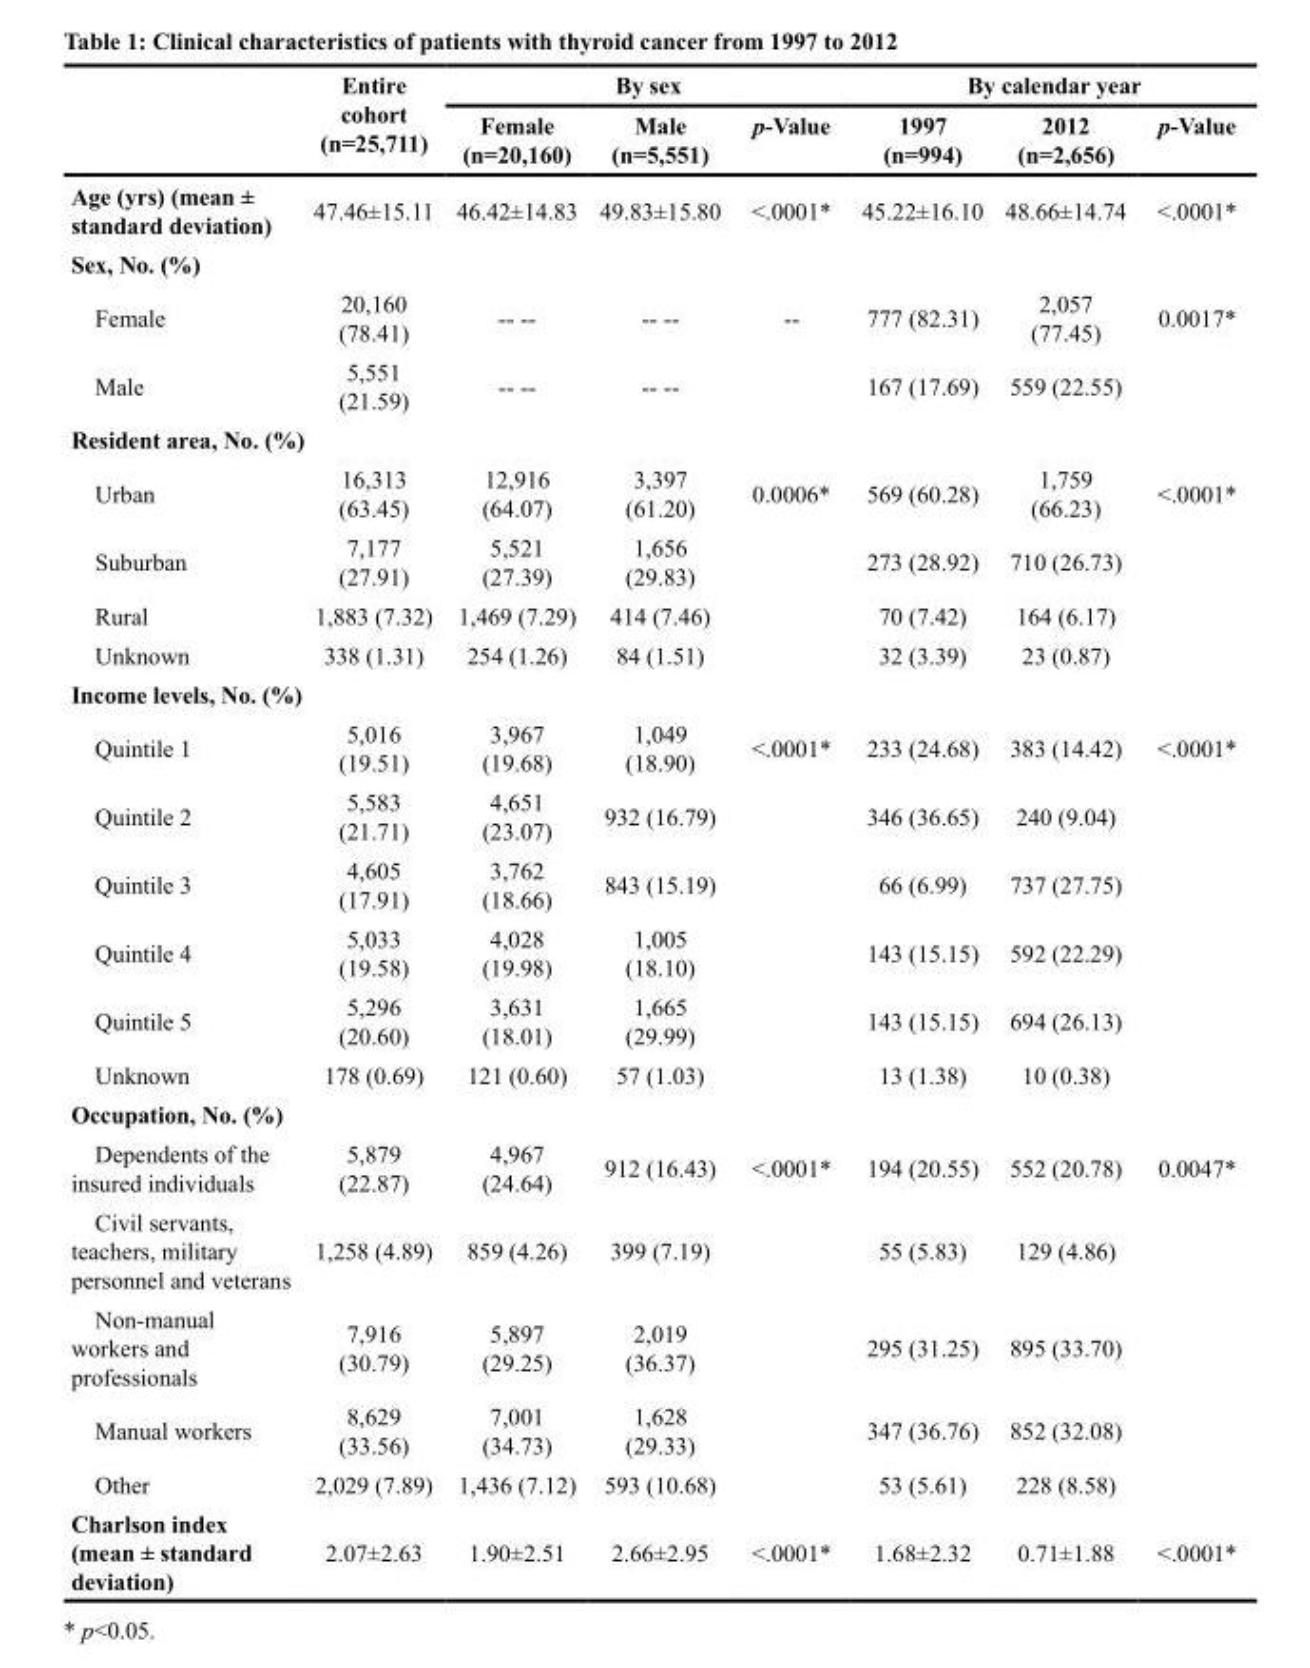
<table><thead><tr><td rowspan="2"></td><td rowspan="2">Entire cohort (n=25,711)</td><td colspan="3">By sex</td><td colspan="3">By calendar year</td></tr><tr><td>Female (n=20,160)</td><td>Male (n=5,551)</td><td>p-Value</td><td>1997 (n=994)</td><td>2012 (n=2,656)</td><td>p-Value</td></tr></thead><tbody><tr><td>Age (yrs) (mean ± standard deviation)</td><td>47.46±15.11</td><td>46.42±14.83</td><td>49.83±15.80</td><td>&lt;.0001*</td><td>45.22±16.10</td><td>48.66±14.74</td><td>&lt;.0001*</td></tr><tr><td colspan="8">Sex, No. (%)</td></tr><tr><td>Female</td><td>20,160 (78.41)</td><td>-- --</td><td>-- --</td><td>--</td><td>777 (82.31)</td><td>2,057 (77.45)</td><td>0.0017*</td></tr><tr><td>Male</td><td>5,551 (21.59)</td><td>-- --</td><td>-- --</td><td></td><td>167 (17.69)</td><td>559 (22.55)</td><td></td></tr><tr><td colspan="8">Resident area, No. (%)</td></tr><tr><td>Urban</td><td>16,313 (63.45)</td><td>12,916 (64.07)</td><td>3,397 (61.20)</td><td>0.0006*</td><td>569 (60.28)</td><td>1,759 (66.23)</td><td>&lt;.0001*</td></tr><tr><td>Suburban</td><td>7,177 (27.91)</td><td>5,521 (27.39)</td><td>1,656 (29.83)</td><td></td><td>273 (28.92)</td><td>710 (26.73)</td><td></td></tr><tr><td>Rural</td><td>1,883 (7.32)</td><td>1,469 (7.29)</td><td>414 (7.46)</td><td></td><td>70 (7.42)</td><td>164 (6.17)</td><td></td></tr><tr><td>Unknown</td><td>338 (1.31)</td><td>254 (1.26)</td><td>84 (1.51)</td><td></td><td>32 (3.39)</td><td>23 (0.87)</td><td></td></tr><tr><td colspan="8">Income levels, No. (%)</td></tr><tr><td>Quintile 1</td><td>5,016 (19.51)</td><td>3,967 (19.68)</td><td>1,049 (18.90)</td><td>&lt;.0001*</td><td>233 (24.68)</td><td>383 (14.42)</td><td>&lt;.0001*</td></tr><tr><td>Quintile 2</td><td>5,583 (21.71)</td><td>4,651 (23.07)</td><td>932 (16.79)</td><td></td><td>346 (36.65)</td><td>240 (9.04)</td><td></td></tr><tr><td>Quintile 3</td><td>4,605 (17.91)</td><td>3,762 (18.66)</td><td>843 (15.19)</td><td></td><td>66 (6.99)</td><td>737 (27.75)</td><td></td></tr><tr><td>Quintile 4</td><td>5,033 (19.58)</td><td>4,028 (19.98)</td><td>1,005 (18.10)</td><td></td><td>143 (15.15)</td><td>592 (22.29)</td><td></td></tr><tr><td>Quintile 5</td><td>5,296 (20.60)</td><td>3,631 (18.01)</td><td>1,665 (29.99)</td><td></td><td>143 (15.15)</td><td>694 (26.13)</td><td></td></tr><tr><td>Unknown</td><td>178 (0.69)</td><td>121 (0.60)</td><td>57 (1.03)</td><td></td><td>13 (1.38)</td><td>10 (0.38)</td><td></td></tr><tr><td colspan="8">Occupation, No. (%)</td></tr><tr><td>Dependents of the insured individuals</td><td>5,879 (22.87)</td><td>4,967 (24.64)</td><td>912 (16.43)</td><td>&lt;.0001*</td><td>194 (20.55)</td><td>552 (20.78)</td><td>0.0047*</td></tr><tr><td>Civil servants, teachers, military personnel and veterans</td><td>1,258 (4.89)</td><td>859 (4.26)</td><td>399 (7.19)</td><td></td><td>55 (5.83)</td><td>129 (4.86)</td><td></td></tr><tr><td>Non-manual workers and professionals</td><td>7,916 (30.79)</td><td>5,897 (29.25)</td><td>2,019 (36.37)</td><td></td><td>295 (31.25)</td><td>895 (33.70)</td><td></td></tr><tr><td>Manual workers</td><td>8,629 (33.56)</td><td>7,001 (34.73)</td><td>1,628 (29.33)</td><td></td><td>347 (36.76)</td><td>852 (32.08)</td><td></td></tr><tr><td>Other</td><td>2,029 (7.89)</td><td>1,436 (7.12)</td><td>593 (10.68)</td><td></td><td>53 (5.61)</td><td>228 (8.58)</td><td></td></tr><tr><td>Charlson index (mean ± standard deviation)</td><td>2.07±2.63</td><td>1.90±2.51</td><td>2.66±2.95</td><td>&lt;.0001*</td><td>1.68±2.32</td><td>0.71±1.88</td><td>&lt;.0001*</td></tr></tbody></table>